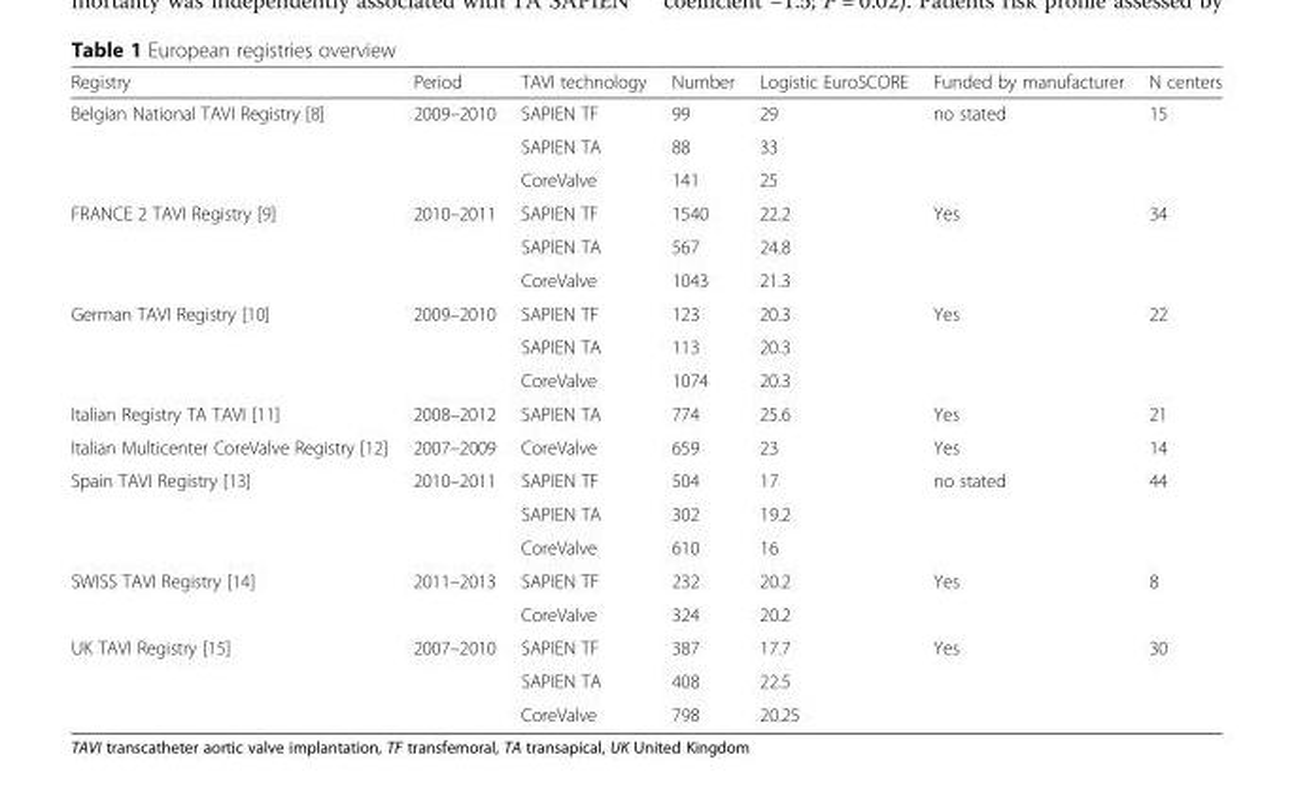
<table><thead><tr><td>Registry</td><td>Period</td><td>TAVI technology</td><td>Number</td><td>Logistic EuroSCORE</td><td>Funded by manufacturer</td><td>N centers</td></tr></thead><tbody><tr><td rowspan="3">Belgian National TAVI Registry [8]</td><td rowspan="3">2009–2010</td><td>SAPIEN TF</td><td>99</td><td>29</td><td rowspan="3">no stated</td><td rowspan="3">15</td></tr><tr><td>SAPIEN TA</td><td>88</td><td>33</td></tr><tr><td>CoreValve</td><td>141</td><td>25</td></tr><tr><td rowspan="3">FRANCE 2 TAVI Registry [9]</td><td rowspan="3">2010–2011</td><td>SAPIEN TF</td><td>1540</td><td>22.2</td><td rowspan="3">Yes</td><td rowspan="3">34</td></tr><tr><td>SAPIEN TA</td><td>567</td><td>24.8</td></tr><tr><td>CoreValve</td><td>1043</td><td>21.3</td></tr><tr><td rowspan="3">German TAVI Registry [10]</td><td rowspan="3">2009–2010</td><td>SAPIEN TF</td><td>123</td><td>20.3</td><td rowspan="3">Yes</td><td rowspan="3">22</td></tr><tr><td>SAPIEN TA</td><td>113</td><td>20.3</td></tr><tr><td>CoreValve</td><td>1074</td><td>20.3</td></tr><tr><td>Italian Registry TA TAVI [11]</td><td>2008–2012</td><td>SAPIEN TA</td><td>774</td><td>25.6</td><td>Yes</td><td>21</td></tr><tr><td>Italian Multicenter CoreValve Registry [12]</td><td>2007–2009</td><td>CoreValve</td><td>659</td><td>23</td><td>Yes</td><td>14</td></tr><tr><td rowspan="3">Spain TAVI Registry [13]</td><td rowspan="3">2010–2011</td><td>SAPIEN TF</td><td>504</td><td>17</td><td rowspan="3">no stated</td><td rowspan="3">44</td></tr><tr><td>SAPIEN TA</td><td>302</td><td>19.2</td></tr><tr><td>CoreValve</td><td>610</td><td>16</td></tr><tr><td rowspan="2">SWISS TAVI Registry [14]</td><td rowspan="2">2011–2013</td><td>SAPIEN TF</td><td>232</td><td>20.2</td><td rowspan="2">Yes</td><td rowspan="2">8</td></tr><tr><td>CoreValve</td><td>324</td><td>20.2</td></tr><tr><td rowspan="3">UK TAVI Registry [15]</td><td rowspan="3">2007–2010</td><td>SAPIEN TF</td><td>387</td><td>17.7</td><td rowspan="3">Yes</td><td rowspan="3">30</td></tr><tr><td>SAPIEN TA</td><td>408</td><td>22.5</td></tr><tr><td>CoreValve</td><td>798</td><td>20.25</td></tr></tbody></table>